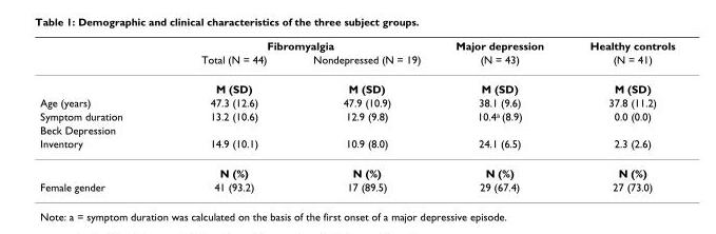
<table><thead><tr><td rowspan="2"></td><td colspan="2">Fibromyalgia</td><td rowspan="2">Major depression (N = 43)</td><td rowspan="2">Healthy controls (N = 41)</td></tr><tr><td>Total (N = 44)</td><td>Nondepressed (N = 19)</td></tr></thead><tbody><tr><td></td><td>M (SD)</td><td>M (SD)</td><td>M (SD)</td><td>M (SD)</td></tr><tr><td>Age (years)</td><td>47.3 (12.6)</td><td>47.9 (10.9)</td><td>38.1 (9.6)</td><td>37.8 (11.2)</td></tr><tr><td>Symptom duration</td><td>13.2 (10.6)</td><td>12.9 (9.8)</td><td>10.4<sup>a</sup> (8.9)</td><td>0.0 (0.0)</td></tr><tr><td colspan="5">Beck Depression</td></tr><tr><td rowspan="2">Inventory</td><td>14.9 (10.1)</td><td>10.9 (8.0)</td><td>24.1 (6.5)</td><td>2.3 (2.6)</td></tr><tr><td>N (%)</td><td>N (%)</td><td>N (%)</td><td>N (%)</td></tr><tr><td>Female gender</td><td>41 (93.2)</td><td>17 (89.5)</td><td>29 (67.4)</td><td>27 (73.0)</td></tr></tbody></table>